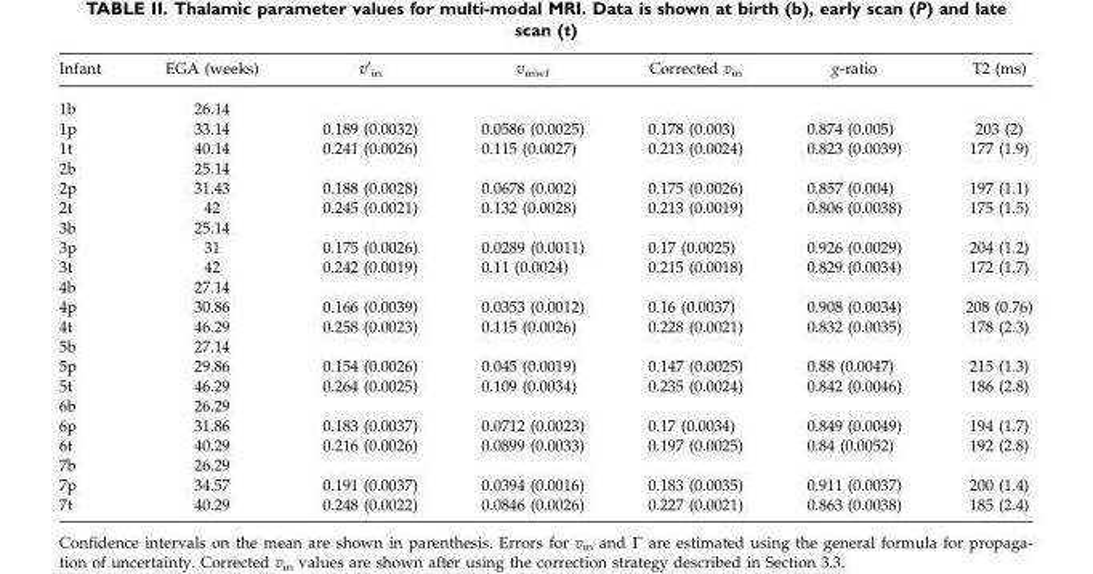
<table><thead><tr><td>Infant</td><td>EGA (weeks)</td><td>v′<sub>in</sub></td><td>v<sub>mwf</sub></td><td>Corrected v<sub>in</sub></td><td>g-ratio</td><td>T2 (ms)</td></tr></thead><tbody><tr><td>1b</td><td>26.14</td><td></td><td></td><td></td><td></td><td></td></tr><tr><td>1p</td><td>33.14</td><td>0.189 (0.0032)</td><td>0.0586 (0.0025)</td><td>0.178 (0.003)</td><td>0.874 (0.005)</td><td>203 (2)</td></tr><tr><td>1t</td><td>40.14</td><td>0.241 (0.0026)</td><td>0.115 (0.0027)</td><td>0.213 (0.0024)</td><td>0.823 (0.0039)</td><td>177 (1.9)</td></tr><tr><td>2b</td><td>25.14</td><td></td><td></td><td></td><td></td><td></td></tr><tr><td>2p</td><td>31.43</td><td>0.188 (0.0028)</td><td>0.0678 (0.002)</td><td>0.175 (0.0026)</td><td>0.857 (0.004)</td><td>197 (1.1)</td></tr><tr><td>2t</td><td>42</td><td>0.245 (0.0021)</td><td>0.132 (0.0028)</td><td>0.213 (0.0019)</td><td>0.806 (0.0038)</td><td>175 (1.5)</td></tr><tr><td>3b</td><td>25.14</td><td></td><td></td><td></td><td></td><td></td></tr><tr><td>3p</td><td>31</td><td>0.175 (0.0026)</td><td>0.0289 (0.0011)</td><td>0.17 (0.0025)</td><td>0.926 (0.0029)</td><td>204 (1.2)</td></tr><tr><td>3t</td><td>42</td><td>0.242 (0.0019)</td><td>0.11 (0.0024)</td><td>0.215 (0.0018)</td><td>0.829 (0.0034)</td><td>172 (1.7)</td></tr><tr><td>4b</td><td>27.14</td><td></td><td></td><td></td><td></td><td></td></tr><tr><td>4p</td><td>30.86</td><td>0.166 (0.0039)</td><td>0.0353 (0.0012)</td><td>0.16 (0.0037)</td><td>0.908 (0.0034)</td><td>208 (0.76)</td></tr><tr><td>4t</td><td>46.29</td><td>0.258 (0.0023)</td><td>0.115 (0.0026)</td><td>0.228 (0.0021)</td><td>0.832 (0.0035)</td><td>178 (2.3)</td></tr><tr><td>5b</td><td>27.14</td><td></td><td></td><td></td><td></td><td></td></tr><tr><td>5p</td><td>29.86</td><td>0.154 (0.0026)</td><td>0.045 (0.0019)</td><td>0.147 (0.0025)</td><td>0.88 (0.0047)</td><td>215 (1.3)</td></tr><tr><td>5t</td><td>46.29</td><td>0.264 (0.0025)</td><td>0.109 (0.0034)</td><td>0.235 (0.0024)</td><td>0.842 (0.0046)</td><td>186 (2.8)</td></tr><tr><td>6b</td><td>26.29</td><td></td><td></td><td></td><td></td><td></td></tr><tr><td>6p</td><td>31.86</td><td>0.183 (0.0037)</td><td>0.0712 (0.0023)</td><td>0.17 (0.0034)</td><td>0.849 (0.0049)</td><td>194 (1.7)</td></tr><tr><td>6t</td><td>40.29</td><td>0.216 (0.0026)</td><td>0.0899 (0.0033)</td><td>0.197 (0.0025)</td><td>0.84 (0.0052)</td><td>192 (2.8)</td></tr><tr><td>7b</td><td>26.29</td><td></td><td></td><td></td><td></td><td></td></tr><tr><td>7p</td><td>34.57</td><td>0.191 (0.0037)</td><td>0.0394 (0.0016)</td><td>0.183 (0.0035)</td><td>0.911 (0.0037)</td><td>200 (1.4)</td></tr><tr><td>7t</td><td>40.29</td><td>0.248 (0.0022)</td><td>0.0846 (0.0026)</td><td>0.227 (0.0021)</td><td>0.863 (0.0038)</td><td>185 (2.4)</td></tr></tbody></table>